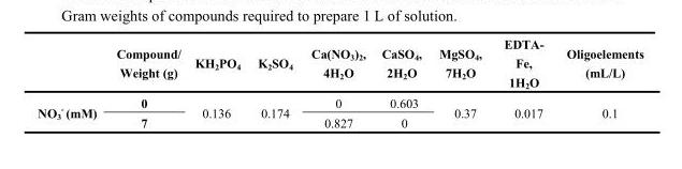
<table><thead><tr><td></td><td>Compound/ Weight (g)</td><td>KH<sub>2</sub>PO<sub>4</sub></td><td>K<sub>2</sub>SO<sub>4</sub></td><td>Ca(NO<sub>3</sub>)<sub>2</sub>, 4H<sub>2</sub>O</td><td>CaSO<sub>4</sub>, 2H<sub>2</sub>O</td><td>MgSO<sub>4</sub>, 7H<sub>2</sub>O</td><td>EDTA- Fe, 1H<sub>2</sub>O</td><td>Oligoelements (mL/L)</td></tr></thead><tbody><tr><td rowspan="2">NO<sub>3</sub> <sup>-</sup> (mM)</td><td>0</td><td rowspan="2">0.136</td><td rowspan="2">0.174</td><td>0</td><td>0.603</td><td rowspan="2">0.37</td><td rowspan="2">0.017</td><td rowspan="2">0.1</td></tr><tr><td>7</td><td>0.827</td><td>0</td></tr></tbody></table>